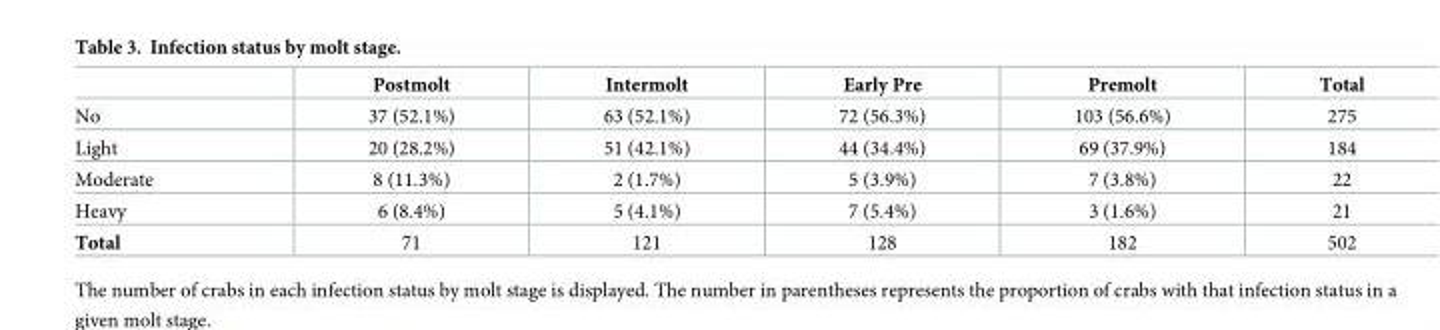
<table><thead><tr><td></td><td>Postmolt</td><td>Intermolt</td><td>Early Pre</td><td>Premolt</td><td>Total</td></tr></thead><tbody><tr><td>No</td><td>37 (52.1%)</td><td>63 (52.1%)</td><td>72 (56.3%)</td><td>103 (56.6%)</td><td>275</td></tr><tr><td>Light</td><td>20 (28.2%)</td><td>51 (42.1%)</td><td>44 (34.4%)</td><td>69 (37.9%)</td><td>184</td></tr><tr><td>Moderate</td><td>8 (11.3%)</td><td>2 (1.7%)</td><td>5 (3.9%)</td><td>7 (3.8%)</td><td>22</td></tr><tr><td>Heavy</td><td>6 (8.4%)</td><td>5 (4.1%)</td><td>7 (5.4%)</td><td>3 (1.6%)</td><td>21</td></tr><tr><td>Total</td><td>71</td><td>121</td><td>128</td><td>182</td><td>502</td></tr></tbody></table>